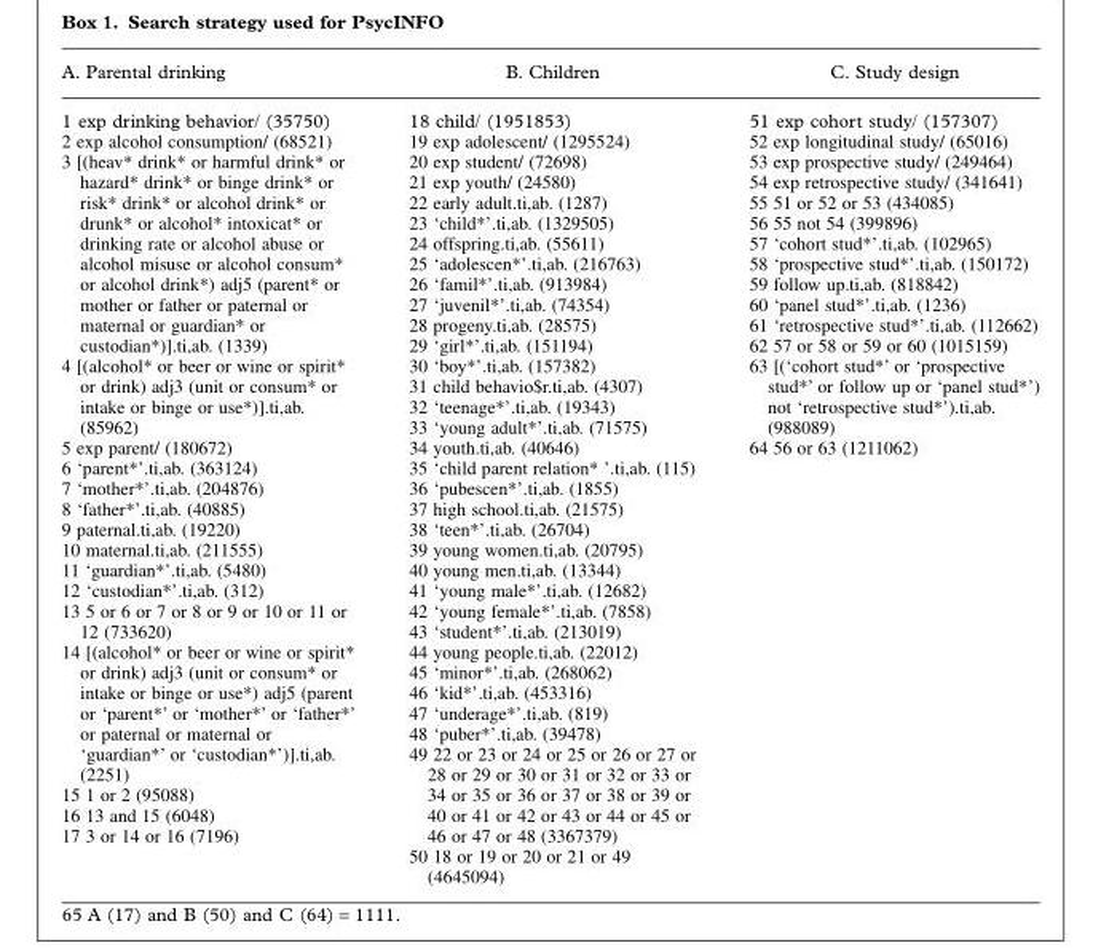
<table><thead><tr><td>A. Parental drinking</td><td>B. Children</td><td>C. Study design</td></tr></thead><tbody><tr><td>1 exp drinking behavior/ (35750) 2 exp alcohol consumption/ (68521) 3 [(heav* drink* or harmful drink* or hazard* drink* or binge drink* or risk* drink* or alcohol drink* or drunk* or alcohol* intoxicat* or drinking rate or alcohol abuse or alcohol misuse or alcohol consum* or alcohol drink*) adj5 (parent* or mother or father or paternal or maternal or guardian* or custodian*)].ti,ab. (1339) 4 [(alcohol* or beer or wine or spirit* or drink) adj3 (unit or consum* or intake or binge or use*)].ti,ab. (85962) 5 exp parent/ (180672) 6 ‘parent*’.ti,ab. (363124) 7 ‘mother*’.ti,ab. (204876) 8 ‘father*’.ti,ab. (40885) 9 paternal.ti,ab. (19220) 10 maternal.ti,ab. (211555) 11 ‘guardian*’.ti,ab. (5480) 12 ‘custodian*’.ti,ab. (312) 13 5 or 6 or 7 or 8 or 9 or 10 or 11 or 12 (733620) 14 [(alcohol* or beer or wine or spirit* or drink) adj3 (unit or consum* or intake or binge or use*) adj5 (parent or ‘parent*’ or ‘mother*’ or ‘father*’ or paternal or maternal or ‘guardian*’ or ‘custodian*’)].ti,ab. (2251) 15 1 or 2 (95088) 16 13 and 15 (6048) 17 3 or 14 or 16 (7196)</td><td>18 child/ (1951853) 19 exp adolescent/ (1295524) 20 exp student/ (72698) 21 exp youth/ (24580) 22 early adult.ti,ab. (1287) 23 ‘child*’.ti,ab. (1329505) 24 offspring.ti,ab. (55611) 25 ‘adolescen*’.ti,ab. (216763) 26 ‘famil*’.ti,ab. (913984) 27 ‘juvenil*’.ti,ab. (74354) 28 progeny.ti,ab. (28575) 29 ‘girl*’.ti,ab. (151194) 30 ‘boy*’.ti,ab. (157382) 31 child behavio$r.ti,ab. (4307) 32 ‘teenage*’.ti,ab. (19343) 33 ‘young adult*’.ti,ab. (71575) 34 youth.ti,ab. (40646) 35 ‘child parent relation* ’.ti,ab. (115) 36 ‘pubescen*’.ti,ab. (1855) 37 high school.ti,ab. (21575) 38 ‘teen*’.ti,ab. (26704) 39 young women.ti,ab. (20795) 40 young men.ti,ab. (13344) 41 ‘young male*’.ti,ab. (12682) 42 ‘young female*’.ti,ab. (7858) 43 ‘student*’.ti,ab. (213019) 44 young people.ti,ab. (22012) 45 ‘minor*’.ti,ab. (268062) 46 ‘kid*’.ti,ab. (453316) 47 ‘underage*’.ti,ab. (819) 48 ‘puber*’.ti,ab. (39478) 49 22 or 23 or 24 or 25 or 26 or 27 or 28 or 29 or 30 or 31 or 32 or 33 or 34 or 35 or 36 or 37 or 38 or 39 or 40 or 41 or 42 or 43 or 44 or 45 or 46 or 47 or 48 (3367379) 50 18 or 19 or 20 or 21 or 49 (4645094)</td><td>51 exp cohort study/ (157307) 52 exp longitudinal study/ (65016) 53 exp prospective study/ (249464) 54 exp retrospective study/ (341641) 55 51 or 52 or 53 (434085) 56 55 not 54 (399896) 57 ‘cohort stud*’.ti,ab. (102965) 58 ‘prospective stud*’.ti,ab. (150172) 59 follow up.ti,ab. (818842) 60 ‘panel stud*’.ti,ab. (1236) 61 ‘retrospective stud*’.ti,ab. (112662) 62 57 or 58 or 59 or 60 (1015159) 63 [(‘cohort stud*’ or ‘prospective stud*’ or follow up or ‘panel stud*’) not ‘retrospective stud*’).ti,ab. (988089) 64 56 or 63 (1211062)</td></tr></tbody></table>